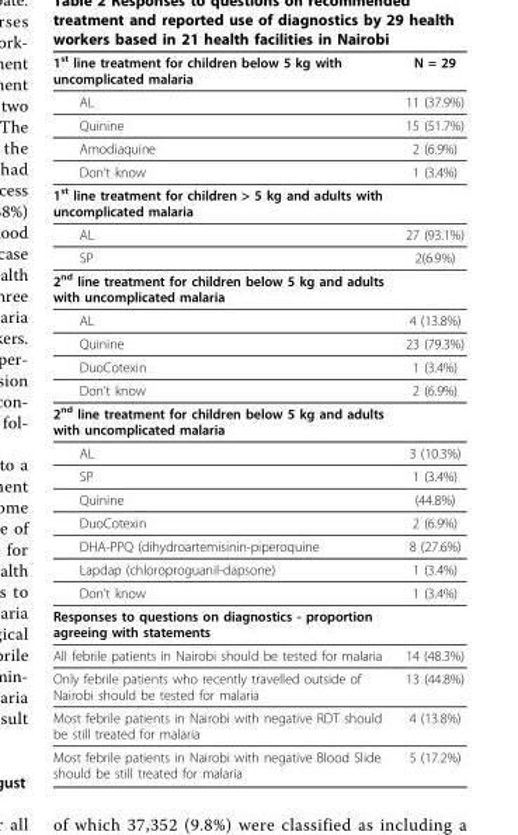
<table><thead><tr><td>1<sup>st</sup> line treatment for children below 5 kg with uncomplicated malaria</td><td>N = 29</td></tr></thead><tbody><tr><td>AL</td><td>11 (37.9%)</td></tr><tr><td>Quinine</td><td>15 (51.7%)</td></tr><tr><td>Amodiaquine</td><td>2 (6.9%)</td></tr><tr><td>Don’t know</td><td>1 (3.4%)</td></tr><tr><td colspan="2">1<sup>st</sup> line treatment for children &gt; 5 kg and adults with uncomplicated malaria</td></tr><tr><td>AL</td><td>27 (93.1%)</td></tr><tr><td>SP</td><td>2(6.9%)</td></tr><tr><td colspan="2">2<sup>nd</sup> line treatment for children below 5 kg and adults with uncomplicated malaria</td></tr><tr><td>AL</td><td>4 (13.8%)</td></tr><tr><td>Quinine</td><td>23 (79.3%)</td></tr><tr><td>DuoCotexin</td><td>1 (3.4%)</td></tr><tr><td>Don’t know</td><td>2 (6.9%)</td></tr><tr><td colspan="2">2<sup>nd</sup> line treatment for children below 5 kg and adults with uncomplicated malaria</td></tr><tr><td>AL</td><td>3 (10.3%)</td></tr><tr><td>SP</td><td>1 (3.4%)</td></tr><tr><td>Quinine</td><td>(44.8%)</td></tr><tr><td>DuoCotexin</td><td>2 (6.9%)</td></tr><tr><td>DHA-PPQ (dihydroartemisinin-piperoquine</td><td>8 (27.6%)</td></tr><tr><td>Lapdap (chloroproguanil-dapsone)</td><td>1 (3.4%)</td></tr><tr><td>Don’t know</td><td>1 (3.4%)</td></tr><tr><td colspan="2">Responses to questions on diagnostics - proportion agreeing with statements</td></tr><tr><td>All febrile patients in Nairobi should be tested for malaria</td><td>14 (48.3%)</td></tr><tr><td>Only febrile patients who recently travelled outside of Nairobi should be tested for malaria</td><td>13 (44.8%)</td></tr><tr><td>Most febrile patients in Nairobi with negative RDT should be still treated for malaria</td><td>4 (13.8%)</td></tr><tr><td>Most febrile patients in Nairobi with negative Blood Slide should be still treated for malaria</td><td>5 (17.2%)</td></tr></tbody></table>